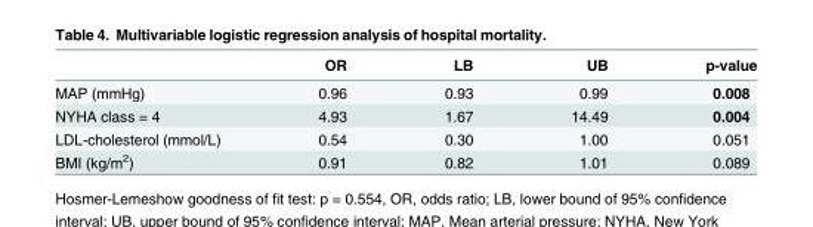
<table><thead><tr><td></td><td>OR</td><td>LB</td><td>UB</td><td>p-value</td></tr></thead><tbody><tr><td>MAP (mmHg)</td><td>0.96</td><td>0.93</td><td>0.99</td><td>0.008</td></tr><tr><td>NYHA class = 4</td><td>4.93</td><td>1.67</td><td>14.49</td><td>0.004</td></tr><tr><td>LDL-cholesterol (mmol/L)</td><td>0.54</td><td>0.30</td><td>1.00</td><td>0.051</td></tr><tr><td>BMI (kg/m<sup>2</sup>)</td><td>0.91</td><td>0.82</td><td>1.01</td><td>0.089</td></tr></tbody></table>